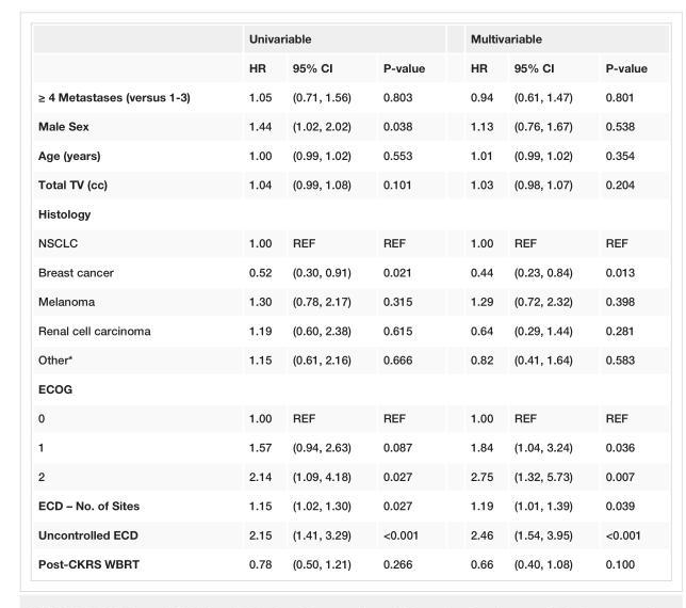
<table><thead><tr><td rowspan="2"></td><td colspan="3">Univariable</td><td colspan="3">Multivariable</td></tr><tr><td>HR</td><td>95% CI</td><td>P-value</td><td>HR</td><td>95% CI</td><td>P-value</td></tr></thead><tbody><tr><td>≥ 4 Metastases (versus 1-3)</td><td>1.05</td><td>(0.71, 1.56)</td><td>0.803</td><td>0.94</td><td>(0.61, 1.47)</td><td>0.801</td></tr><tr><td>Male Sex</td><td>1.44</td><td>(1.02, 2.02)</td><td>0.038</td><td>1.13</td><td>(0.76, 1.67)</td><td>0.538</td></tr><tr><td>Age (years)</td><td>1.00</td><td>(0.99, 1.02)</td><td>0.553</td><td>1.01</td><td>(0.99, 1.02)</td><td>0.354</td></tr><tr><td>Total TV (cc)</td><td>1.04</td><td>(0.99, 1.08)</td><td>0.101</td><td>1.03</td><td>(0.98, 1.07)</td><td>0.204</td></tr><tr><td colspan="7">Histology</td></tr><tr><td>NSCLC</td><td>1.00</td><td>REF</td><td>REF</td><td>1.00</td><td>REF</td><td>REF</td></tr><tr><td>Breast cancer</td><td>0.52</td><td>(0.30, 0.91)</td><td>0.021</td><td>0.44</td><td>(0.23, 0.84)</td><td>0.013</td></tr><tr><td>Melanoma</td><td>1.30</td><td>(0.78, 2.17)</td><td>0.315</td><td>1.29</td><td>(0.72, 2.32)</td><td>0.398</td></tr><tr><td>Renal cell carcinoma</td><td>1.19</td><td>(0.60, 2.38)</td><td>0.615</td><td>0.64</td><td>(0.29, 1.44)</td><td>0.281</td></tr><tr><td>Other*</td><td>1.15</td><td>(0.61, 2.16)</td><td>0.666</td><td>0.82</td><td>(0.41, 1.64)</td><td>0.583</td></tr><tr><td colspan="7">ECOG</td></tr><tr><td>0</td><td>1.00</td><td>REF</td><td>REF</td><td>1.00</td><td>REF</td><td>REF</td></tr><tr><td>1</td><td>1.57</td><td>(0.94, 2.63)</td><td>0.087</td><td>1.84</td><td>(1.04, 3.24)</td><td>0.036</td></tr><tr><td>2</td><td>2.14</td><td>(1.09, 4.18)</td><td>0.027</td><td>2.75</td><td>(1.32, 5.73)</td><td>0.007</td></tr><tr><td>ECD – No. of Sites</td><td>1.15</td><td>(1.02, 1.30)</td><td>0.027</td><td>1.19</td><td>(1.01, 1.39)</td><td>0.039</td></tr><tr><td>Uncontrolled ECD</td><td>2.15</td><td>(1.41, 3.29)</td><td>&lt;0.001</td><td>2.46</td><td>(1.54, 3.95)</td><td>&lt;0.001</td></tr><tr><td>Post-CKRS WBRT</td><td>0.78</td><td>(0.50, 1.21)</td><td>0.266</td><td>0.66</td><td>(0.40, 1.08)</td><td>0.100</td></tr></tbody></table>